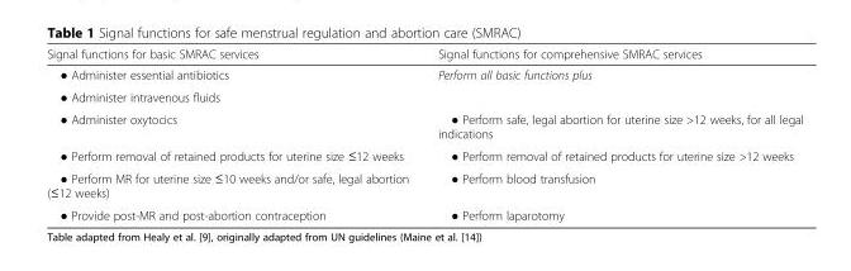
<table><thead><tr><td>Signal functions for basic SMRAC services</td><td>Signal functions for comprehensive SMRAC services</td></tr></thead><tbody><tr><td>● Administer essential antibiotics</td><td rowspan="2">Perform all basic functions plus</td></tr><tr><td>● Administer intravenous fluids</td></tr><tr><td>● Administer oxytocics</td><td>● Perform safe, legal abortion for uterine size &gt;12 weeks, for all legal indications</td></tr><tr><td>● Perform removal of retained products for uterine size ≤12 weeks</td><td>● Perform removal of retained products for uterine size &gt;12 weeks</td></tr><tr><td>● Perform MR for uterine size ≤10 weeks and/or safe, legal abortion (≤12 weeks)</td><td>● Perform blood transfusion</td></tr><tr><td>● Provide post-MR and post-abortion contraception</td><td>● Perform laparotomy</td></tr></tbody></table>